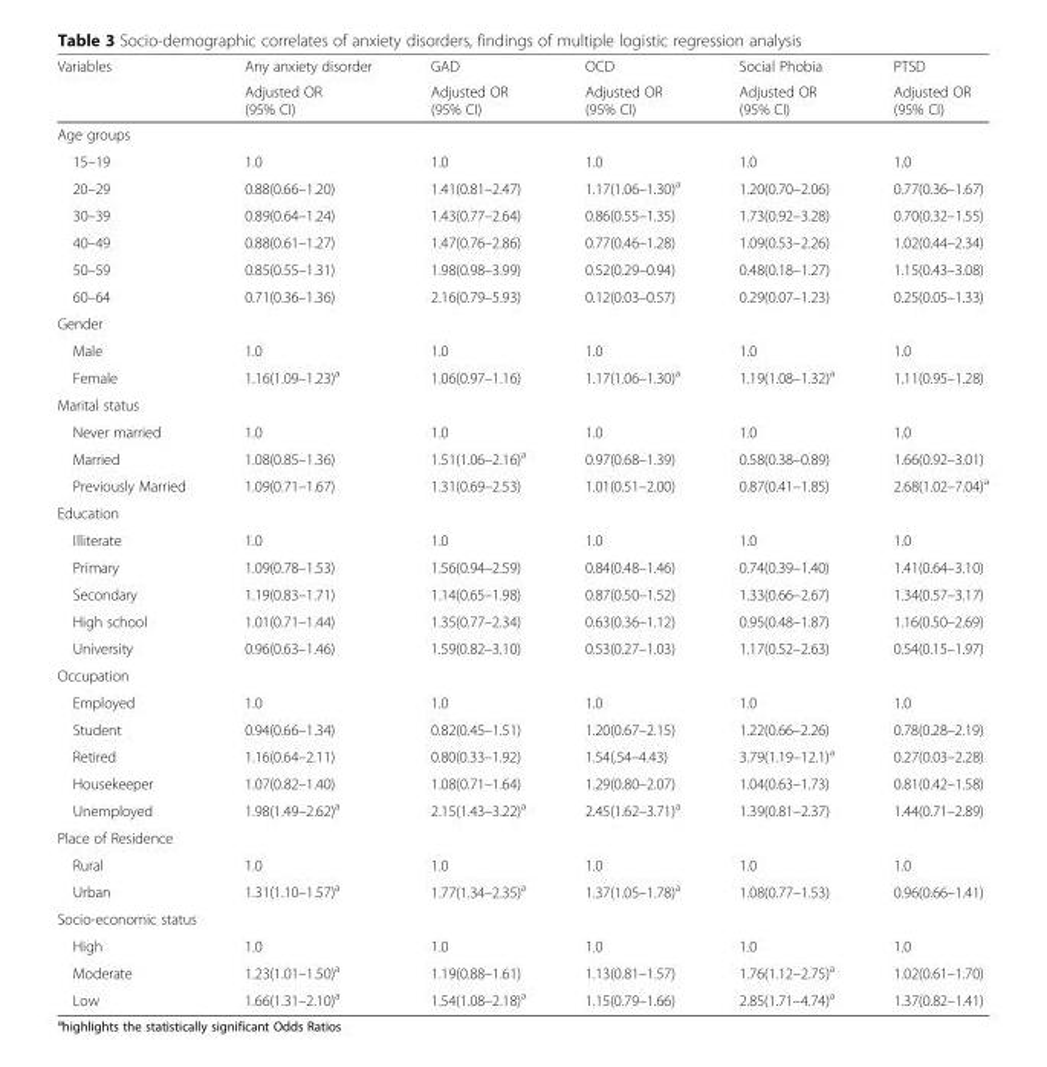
<table><thead><tr><td rowspan="2">Variables</td><td rowspan="2">Any anxiety disorder Adjusted OR (95% CI)</td><td rowspan="2">GAD Adjusted OR (95% CI)</td><td rowspan="2">OCD Adjusted OR (95% CI)</td><td rowspan="2">Social Phobia Adjusted OR (95% CI)</td><td rowspan="2">PTSD Adjusted OR (95% CI)</td></tr><tr></tr></thead><tbody><tr><td colspan="6">Age groups</td></tr><tr><td>15–19</td><td>1.0</td><td>1.0</td><td>1.0</td><td>1.0</td><td>1.0</td></tr><tr><td>20–29</td><td>0.88(0.66–1.20)</td><td>1.41(0.81–2.47)</td><td>1.17(1.06–1.30)<sup>a</sup></td><td>1.20(0.70–2.06)</td><td>0.77(0.36–1.67)</td></tr><tr><td>30–39</td><td>0.89(0.64–1.24)</td><td>1.43(0.77–2.64)</td><td>0.86(0.55–1.35)</td><td>1.73(0.92–3.28)</td><td>0.70(0.32–1.55)</td></tr><tr><td>40–49</td><td>0.88(0.61–1.27)</td><td>1.47(0.76–2.86)</td><td>0.77(0.46–1.28)</td><td>1.09(0.53–2.26)</td><td>1.02(0.44–2.34)</td></tr><tr><td>50–59</td><td>0.85(0.55–1.31)</td><td>1.98(0.98–3.99)</td><td>0.52(0.29–0.94)</td><td>0.48(0.18–1.27)</td><td>1.15(0.43–3.08)</td></tr><tr><td>60–64</td><td>0.71(0.36–1.36)</td><td>2.16(0.79–5.93)</td><td>0.12(0.03–0.57)</td><td>0.29(0.07–1.23)</td><td>0.25(0.05–1.33)</td></tr><tr><td colspan="6">Gender</td></tr><tr><td>Male</td><td>1.0</td><td>1.0</td><td>1.0</td><td>1.0</td><td>1.0</td></tr><tr><td>Female</td><td>1.16(1.09–1.23)<sup>a</sup></td><td>1.06(0.97–1.16)</td><td>1.17(1.06–1.30)<sup>a</sup></td><td>1.19(1.08–1.32)<sup>a</sup></td><td>1.11(0.95–1.28)</td></tr><tr><td colspan="6">Marital status</td></tr><tr><td>Never married</td><td>1.0</td><td>1.0</td><td>1.0</td><td>1.0</td><td>1.0</td></tr><tr><td>Married</td><td>1.08(0.85–1.36)</td><td>1.51(1.06–2.16)<sup>a</sup></td><td>0.97(0.68–1.39)</td><td>0.58(0.38–0.89)</td><td>1.66(0.92–3.01)</td></tr><tr><td>Previously Married</td><td>1.09(0.71–1.67)</td><td>1.31(0.69–2.53)</td><td>1.01(0.51–2.00)</td><td>0.87(0.41–1.85)</td><td>2.68(1.02–7.04)<sup>a</sup></td></tr><tr><td colspan="6">Education</td></tr><tr><td>Illiterate</td><td>1.0</td><td>1.0</td><td>1.0</td><td>1.0</td><td>1.0</td></tr><tr><td>Primary</td><td>1.09(0.78–1.53)</td><td>1.56(0.94–2.59)</td><td>0.84(0.48–1.46)</td><td>0.74(0.39–1.40)</td><td>1.41(0.64–3.10)</td></tr><tr><td>Secondary</td><td>1.19(0.83–1.71)</td><td>1.14(0.65–1.98)</td><td>0.87(0.50–1.52)</td><td>1.33(0.66–2.67)</td><td>1.34(0.57–3.17)</td></tr><tr><td>High school</td><td>1.01(0.71–1.44)</td><td>1.35(0.77–2.34)</td><td>0.63(0.36–1.12)</td><td>0.95(0.48–1.87)</td><td>1.16(0.50–2.69)</td></tr><tr><td>University</td><td>0.96(0.63–1.46)</td><td>1.59(0.82–3.10)</td><td>0.53(0.27–1.03)</td><td>1.17(0.52–2.63)</td><td>0.54(0.15–1.97)</td></tr><tr><td colspan="6">Occupation</td></tr><tr><td>Employed</td><td>1.0</td><td>1.0</td><td>1.0</td><td>1.0</td><td>1.0</td></tr><tr><td>Student</td><td>0.94(0.66–1.34)</td><td>0.82(0.45–1.51)</td><td>1.20(0.67–2.15)</td><td>1.22(0.66–2.26)</td><td>0.78(0.28–2.19)</td></tr><tr><td>Retired</td><td>1.16(0.64–2.11)</td><td>0.80(0.33–1.92)</td><td>1.54(.54–4.43)</td><td>3.79(1.19–12.1)<sup>a</sup></td><td>0.27(0.03–2.28)</td></tr><tr><td>Housekeeper</td><td>1.07(0.82–1.40)</td><td>1.08(0.71–1.64)</td><td>1.29(0.80–2.07)</td><td>1.04(0.63–1.73)</td><td>0.81(0.42–1.58)</td></tr><tr><td>Unemployed</td><td>1.98(1.49–2.62)<sup>a</sup></td><td>2.15(1.43–3.22)<sup>a</sup></td><td>2.45(1.62–3.71)<sup>a</sup></td><td>1.39(0.81–2.37)</td><td>1.44(0.71–2.89)</td></tr><tr><td colspan="6">Place of Residence</td></tr><tr><td>Rural</td><td>1.0</td><td>1.0</td><td>1.0</td><td>1.0</td><td>1.0</td></tr><tr><td>Urban</td><td>1.31(1.10–1.57)<sup>a</sup></td><td>1.77(1.34–2.35)<sup>a</sup></td><td>1.37(1.05–1.78)<sup>a</sup></td><td>1.08(0.77–1.53)</td><td>0.96(0.66–1.41)</td></tr><tr><td colspan="6">Socio-economic status</td></tr><tr><td>High</td><td>1.0</td><td>1.0</td><td>1.0</td><td>1.0</td><td>1.0</td></tr><tr><td>Moderate</td><td>1.23(1.01–1.50)<sup>a</sup></td><td>1.19(0.88–1.61)</td><td>1.13(0.81–1.57)</td><td>1.76(1.12–2.75)<sup>a</sup></td><td>1.02(0.61–1.70)</td></tr><tr><td>Low</td><td>1.66(1.31–2.10)<sup>a</sup></td><td>1.54(1.08–2.18)<sup>a</sup></td><td>1.15(0.79–1.66)</td><td>2.85(1.71–4.74)<sup>a</sup></td><td>1.37(0.82–1.41)</td></tr></tbody></table>